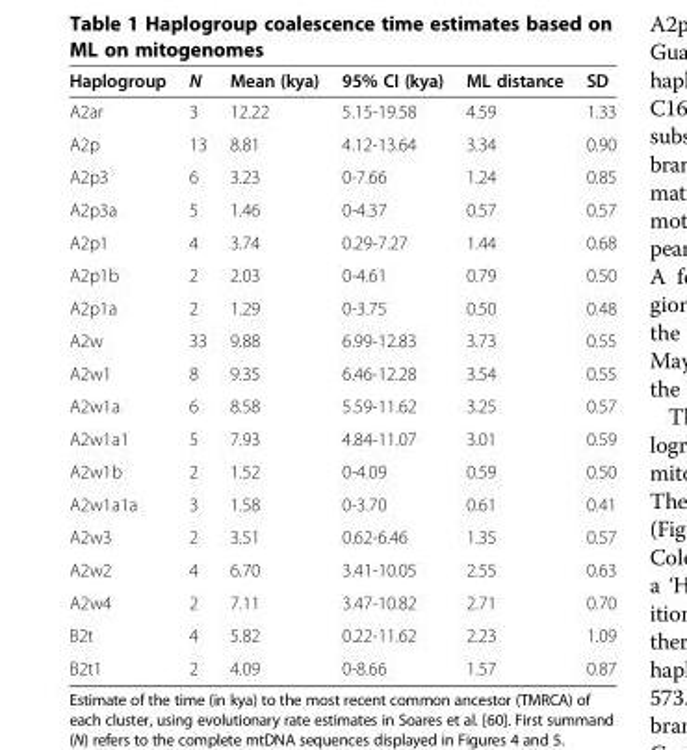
<table><thead><tr><td>Haplogroup</td><td>N</td><td>Mean (kya)</td><td>95% CI (kya)</td><td>ML distance</td><td>SD</td></tr></thead><tbody><tr><td>A2ar</td><td>3</td><td>12.22</td><td>5.15-19.58</td><td>4.59</td><td>1.33</td></tr><tr><td>A2p</td><td>13</td><td>8.81</td><td>4.12-13.64</td><td>3.34</td><td>0.90</td></tr><tr><td>A2p3</td><td>6</td><td>3.23</td><td>0-7.66</td><td>1.24</td><td>0.85</td></tr><tr><td>A2p3a</td><td>5</td><td>1.46</td><td>0-4.37</td><td>0.57</td><td>0.57</td></tr><tr><td>A2p1</td><td>4</td><td>3.74</td><td>0.29-7.27</td><td>1.44</td><td>0.68</td></tr><tr><td>A2p1b</td><td>2</td><td>2.03</td><td>0-4.61</td><td>0.79</td><td>0.50</td></tr><tr><td>A2p1a</td><td>2</td><td>1.29</td><td>0-3.75</td><td>0.50</td><td>0.48</td></tr><tr><td>A2w</td><td>33</td><td>9.88</td><td>6.99-12.83</td><td>3.73</td><td>0.55</td></tr><tr><td>A2w1</td><td>8</td><td>9.35</td><td>6.46-12.28</td><td>3.54</td><td>0.55</td></tr><tr><td>A2w1a</td><td>6</td><td>8.58</td><td>5.59-11.62</td><td>3.25</td><td>0.57</td></tr><tr><td>A2w1a1</td><td>5</td><td>7.93</td><td>4.84-11.07</td><td>3.01</td><td>0.59</td></tr><tr><td>A2w1b</td><td>2</td><td>1.52</td><td>0-4.09</td><td>0.59</td><td>0.50</td></tr><tr><td>A2w1a1a</td><td>3</td><td>1.58</td><td>0-3.70</td><td>0.61</td><td>0.41</td></tr><tr><td>A2w3</td><td>2</td><td>3.51</td><td>0.62-6.46</td><td>1.35</td><td>0.57</td></tr><tr><td>A2w2</td><td>4</td><td>6.70</td><td>3.41-10.05</td><td>2.55</td><td>0.63</td></tr><tr><td>A2w4</td><td>2</td><td>7.11</td><td>3.47-10.82</td><td>2.71</td><td>0.70</td></tr><tr><td>B2t</td><td>4</td><td>5.82</td><td>0.22-11.62</td><td>2.23</td><td>1.09</td></tr><tr><td>B2t1</td><td>2</td><td>4.09</td><td>0-8.66</td><td>1.57</td><td>0.87</td></tr></tbody></table>